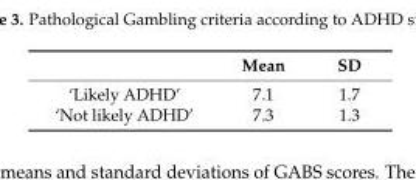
<table><thead><tr><td></td><td>Mean</td><td>SD</td></tr></thead><tbody><tr><td>‘Likely ADHD’</td><td>7.1</td><td>1.7</td></tr><tr><td>‘Not likely ADHD’</td><td>7.3</td><td>1.3</td></tr></tbody></table>